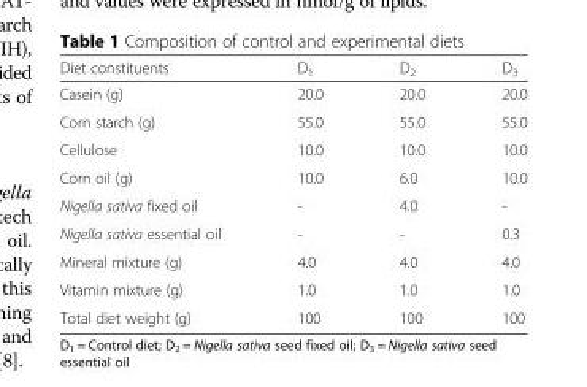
<table><thead><tr><td>Diet constituents</td><td>D<sub>1</sub></td><td>D<sub>2</sub></td><td>D<sub>3</sub></td></tr></thead><tbody><tr><td>Casein (g)</td><td>20.0</td><td>20.0</td><td>20.0</td></tr><tr><td>Corn starch (g)</td><td>55.0</td><td>55.0</td><td>55.0</td></tr><tr><td>Cellulose</td><td>10.0</td><td>10.0</td><td>10.0</td></tr><tr><td>Corn oil (g)</td><td>10.0</td><td>6.0</td><td>10.0</td></tr><tr><td>Nigella sativa fixed oil</td><td>-</td><td>4.0</td><td>-</td></tr><tr><td>Nigella sativa essential oil</td><td>-</td><td>-</td><td>0.3</td></tr><tr><td>Mineral mixture (g)</td><td>4.0</td><td>4.0</td><td>4.0</td></tr><tr><td>Vitamin mixture (g)</td><td>1.0</td><td>1.0</td><td>1.0</td></tr><tr><td>Total diet weight (g)</td><td>100</td><td>100</td><td>100</td></tr></tbody></table>